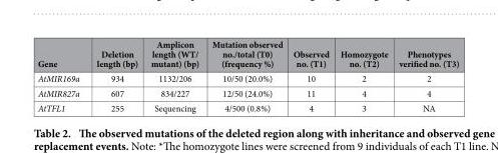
<table><thead><tr><td>Gene</td><td>Deletion length (bp)</td><td>Amplicon length (WT/ mutant) (bp)</td><td>Mutation observed no./total (T0) (frequency %)</td><td>Observed no. (T1)</td><td>Homozygote no. (T2)</td><td>Phenotypes verified no. (T3)</td></tr></thead><tbody><tr><td>AtMIR169a</td><td>934</td><td>1132/206</td><td>10/50 (20.0%)</td><td>10</td><td>2</td><td>2</td></tr><tr><td>AtMIR827a</td><td>607</td><td>834/227</td><td>12/50 (24.0%)</td><td>11</td><td>4</td><td>4</td></tr><tr><td>AtTFL1</td><td>255</td><td>Sequencing</td><td>4/500 (0.8%)</td><td>4</td><td>3</td><td>NA</td></tr></tbody></table>